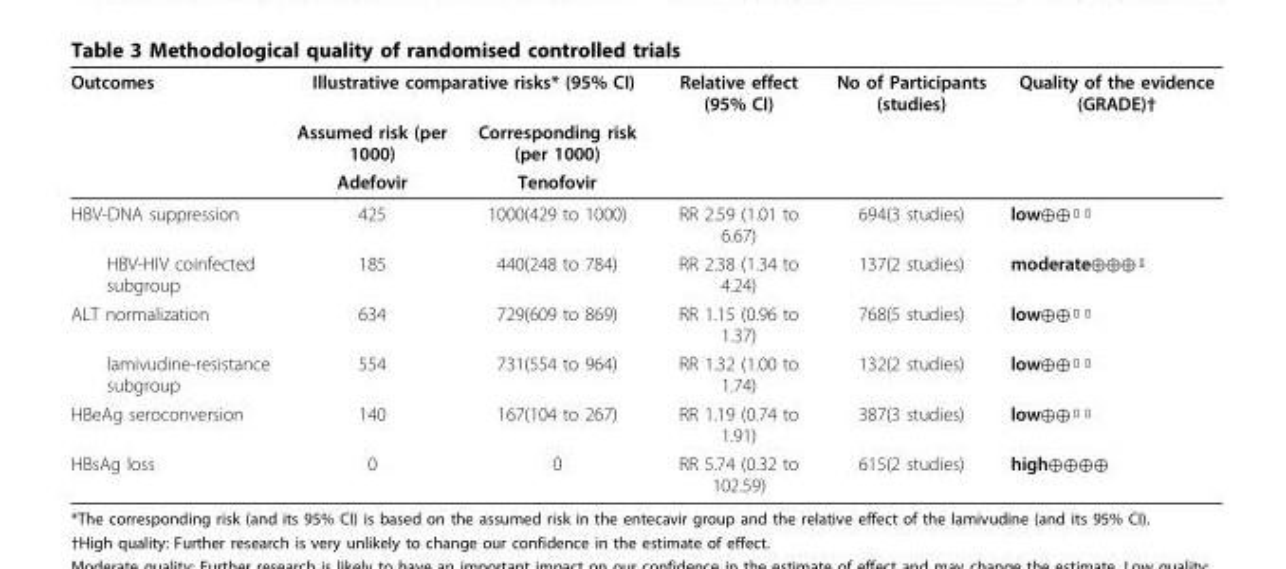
<table><thead><tr><td rowspan="3">Outcomes</td><td colspan="2">Illustrative comparative risks* (95% CI)</td><td rowspan="3">Relative effect (95% CI)</td><td rowspan="3">No of Participants (studies)</td><td rowspan="3">Quality of the evidence (GRADE)†</td></tr><tr><td rowspan="2">Assumed risk (per 1000) Adefovir</td><td rowspan="2">Corresponding risk (per 1000) Tenofovir</td></tr><tr></tr></thead><tbody><tr><td>HBV-DNA suppression</td><td>425</td><td>1000(429 to 1000)</td><td>RR 2.59 (1.01 to 6.67)</td><td>694(3 studies)</td><td>low⊕⊕▯▯</td></tr><tr><td>HBV-HIV coinfected subgroup</td><td>185</td><td>440(248 to 784)</td><td>RR 2.38 (1.34 to 4.24)</td><td>137(2 studies)</td><td>moderate⊕⊕⊕▯</td></tr><tr><td>ALT normalization</td><td>634</td><td>729(609 to 869)</td><td>RR 1.15 (0.96 to 1.37)</td><td>768(5 studies)</td><td>low⊕⊕▯▯</td></tr><tr><td>lamivudine-resistance subgroup</td><td>554</td><td>731(554 to 964)</td><td>RR 1.32 (1.00 to 1.74)</td><td>132(2 studies)</td><td>low⊕⊕▯▯</td></tr><tr><td>HBeAg seroconversion</td><td>140</td><td>167(104 to 267)</td><td>RR 1.19 (0.74 to 1.91)</td><td>387(3 studies)</td><td>low⊕⊕▯▯</td></tr><tr><td>HBsAg loss</td><td>0</td><td>0</td><td>RR 5.74 (0.32 to 102.59)</td><td>615(2 studies)</td><td>high⊕⊕⊕⊕</td></tr></tbody></table>